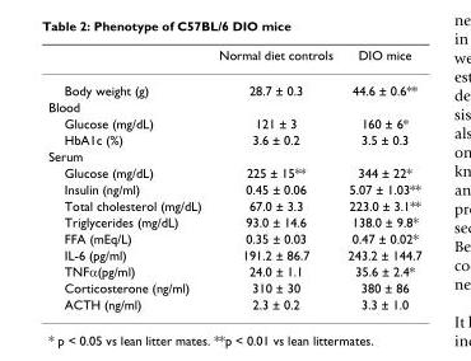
<table><thead><tr><td></td><td>Normal diet controls</td><td>DIO mice</td></tr></thead><tbody><tr><td>Body weight (g)</td><td>28.7 ± 0.3</td><td>44.6 ± 0.6**</td></tr><tr><td colspan="3">Blood</td></tr><tr><td>Glucose (mg/dL)</td><td>121 ± 3</td><td>160 ± 6*</td></tr><tr><td>HbA1c (%)</td><td>3.6 ± 0.2</td><td>3.5 ± 0.3</td></tr><tr><td colspan="3">Serum</td></tr><tr><td>Glucose (mg/dL)</td><td>225 ± 15**</td><td>344 ± 22*</td></tr><tr><td>Insulin (ng/ml)</td><td>0.45 ± 0.06</td><td>5.07 ± 1.03**</td></tr><tr><td>Total cholesterol (mg/dL)</td><td>67.0 ± 3.3</td><td>223.0 ± 3.1**</td></tr><tr><td>Triglycerides (mg/dL)</td><td>93.0 ± 14.6</td><td>138.0 ± 9.8*</td></tr><tr><td>FFA (mEq/L)</td><td>0.35 ± 0.03</td><td>0.47 ± 0.02*</td></tr><tr><td>IL-6 (pg/ml)</td><td>191.2 ± 86.7</td><td>243.2 ± 144.7</td></tr><tr><td>TNFα(pg/ml)</td><td>24.0 ± 1.1</td><td>35.6 ± 2.4*</td></tr><tr><td>Corticosterone (ng/ml)</td><td>310 ± 30</td><td>380 ± 86</td></tr><tr><td>ACTH (ng/ml)</td><td>2.3 ± 0.2</td><td>3.3 ± 1.0</td></tr></tbody></table>